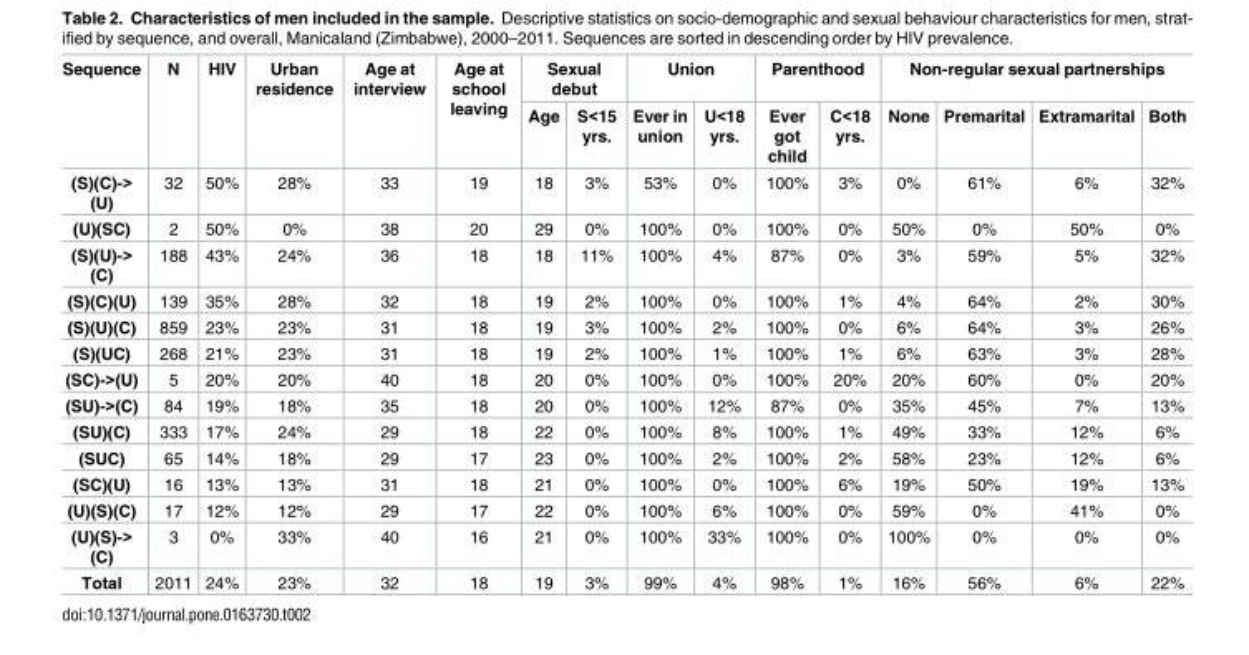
<table><thead><tr><td rowspan="2">Sequence</td><td rowspan="2">N</td><td rowspan="2">HIV</td><td rowspan="2">Urban residence</td><td rowspan="2">Age at interview</td><td rowspan="2">Age at school leaving</td><td colspan="2">Sexual debut</td><td colspan="2">Union</td><td colspan="2">Parenthood</td><td colspan="4">Non-regular sexual partnerships</td></tr><tr><td>Age</td><td>S&lt;15 yrs.</td><td>Ever in union</td><td>U&lt;18 yrs.</td><td>Ever got child</td><td>C&lt;18 yrs.</td><td>None</td><td>Premarital</td><td>Extramarital</td><td>Both</td></tr></thead><tbody><tr><td>(S)(C)-&gt; (U)</td><td>32</td><td>50%</td><td>28%</td><td>33</td><td>19</td><td>18</td><td>3%</td><td>53%</td><td>0%</td><td>100%</td><td>3%</td><td>0%</td><td>61%</td><td>6%</td><td>32%</td></tr><tr><td>(U)(SC)</td><td>2</td><td>50%</td><td>0%</td><td>38</td><td>20</td><td>29</td><td>0%</td><td>100%</td><td>0%</td><td>100%</td><td>0%</td><td>50%</td><td>0%</td><td>50%</td><td>0%</td></tr><tr><td>(S)(U)-&gt; (C)</td><td>188</td><td>43%</td><td>24%</td><td>36</td><td>18</td><td>18</td><td>11%</td><td>100%</td><td>4%</td><td>87%</td><td>0%</td><td>3%</td><td>59%</td><td>5%</td><td>32%</td></tr><tr><td>(S)(C)(U)</td><td>139</td><td>35%</td><td>28%</td><td>32</td><td>18</td><td>19</td><td>2%</td><td>100%</td><td>0%</td><td>100%</td><td>1%</td><td>4%</td><td>64%</td><td>2%</td><td>30%</td></tr><tr><td>(S)(U)(C)</td><td>859</td><td>23%</td><td>23%</td><td>31</td><td>18</td><td>19</td><td>3%</td><td>100%</td><td>2%</td><td>100%</td><td>0%</td><td>6%</td><td>64%</td><td>3%</td><td>26%</td></tr><tr><td>(S)(UC)</td><td>268</td><td>21%</td><td>23%</td><td>31</td><td>18</td><td>19</td><td>2%</td><td>100%</td><td>1%</td><td>100%</td><td>1%</td><td>6%</td><td>63%</td><td>3%</td><td>28%</td></tr><tr><td>(SC)-&gt;(U)</td><td>5</td><td>20%</td><td>20%</td><td>40</td><td>18</td><td>20</td><td>0%</td><td>100%</td><td>0%</td><td>100%</td><td>20%</td><td>20%</td><td>60%</td><td>0%</td><td>20%</td></tr><tr><td>(SU)-&gt;(C)</td><td>84</td><td>19%</td><td>18%</td><td>35</td><td>18</td><td>20</td><td>0%</td><td>100%</td><td>12%</td><td>87%</td><td>0%</td><td>35%</td><td>45%</td><td>7%</td><td>13%</td></tr><tr><td>(SU)(C)</td><td>333</td><td>17%</td><td>24%</td><td>29</td><td>18</td><td>22</td><td>0%</td><td>100%</td><td>8%</td><td>100%</td><td>1%</td><td>49%</td><td>33%</td><td>12%</td><td>6%</td></tr><tr><td>(SUC)</td><td>65</td><td>14%</td><td>18%</td><td>29</td><td>17</td><td>23</td><td>0%</td><td>100%</td><td>2%</td><td>100%</td><td>2%</td><td>58%</td><td>23%</td><td>12%</td><td>6%</td></tr><tr><td>(SC)(U)</td><td>16</td><td>13%</td><td>13%</td><td>31</td><td>18</td><td>21</td><td>0%</td><td>100%</td><td>0%</td><td>100%</td><td>6%</td><td>19%</td><td>50%</td><td>19%</td><td>13%</td></tr><tr><td>(U)(S)(C)</td><td>17</td><td>12%</td><td>12%</td><td>29</td><td>17</td><td>22</td><td>0%</td><td>100%</td><td>6%</td><td>100%</td><td>0%</td><td>59%</td><td>0%</td><td>41%</td><td>0%</td></tr><tr><td>(U)(S)-&gt; (C)</td><td>3</td><td>0%</td><td>33%</td><td>40</td><td>16</td><td>21</td><td>0%</td><td>100%</td><td>33%</td><td>100%</td><td>0%</td><td>100%</td><td>0%</td><td>0%</td><td>0%</td></tr><tr><td>Total</td><td>2011</td><td>24%</td><td>23%</td><td>32</td><td>18</td><td>19</td><td>3%</td><td>99%</td><td>4%</td><td>98%</td><td>1%</td><td>16%</td><td>56%</td><td>6%</td><td>22%</td></tr></tbody></table>